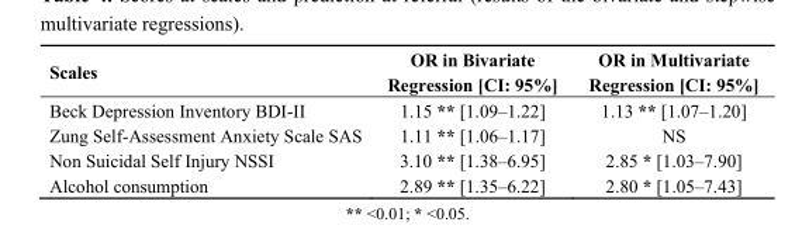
<table><thead><tr><td>Scales</td><td>OR in Bivariate Regression [CI: 95%]</td><td>OR in Multivariate Regression [CI: 95%]</td></tr></thead><tbody><tr><td>Beck Depression Inventory BDI-II</td><td>1.15 ** [1.09–1.22]</td><td>1.13 ** [1.07–1.20]</td></tr><tr><td>Zung Self-Assessment Anxiety Scale SAS</td><td>1.11 ** [1.06–1.17]</td><td>NS</td></tr><tr><td>Non Suicidal Self Injury NSSI</td><td>3.10 ** [1.38–6.95]</td><td>2.85 * [1.03–7.90]</td></tr><tr><td>Alcohol consumption</td><td>2.89 ** [1.35–6.22]</td><td>2.80 * [1.05–7.43]</td></tr></tbody></table>